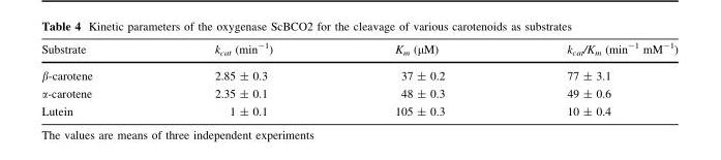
<table><thead><tr><td>Substrate</td><td>k<sub>cat</sub> (min<sup>-1</sup>)</td><td>K<sub>m</sub> (μM)</td><td>k<sub>cat</sub>/K<sub>m</sub> (min<sup>-1</sup> mM<sup>-1</sup>)</td></tr></thead><tbody><tr><td>β-carotene</td><td>2.85 ± 0.3</td><td>37 ± 0.2</td><td>77 ± 3.1</td></tr><tr><td>α-carotene</td><td>2.35 ± 0.1</td><td>48 ± 0.3</td><td>49 ± 0.6</td></tr><tr><td>Lutein</td><td>1 ± 0.1</td><td>105 ± 0.3</td><td>10 ± 0.4</td></tr></tbody></table>